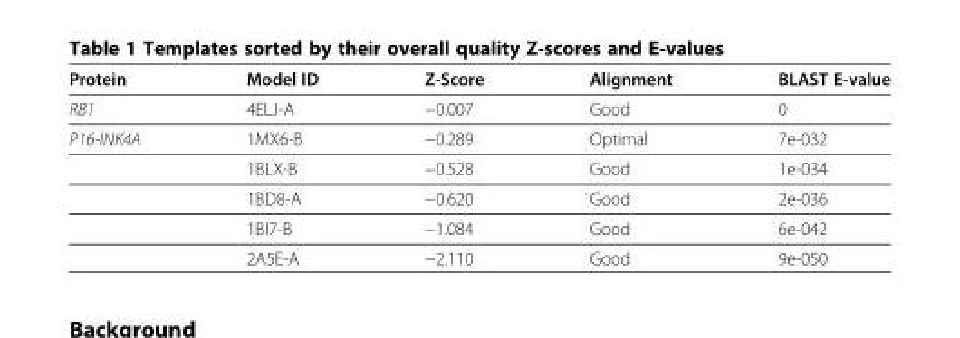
<table><thead><tr><td>Protein</td><td>Model ID</td><td>Z-Score</td><td>Alignment</td><td>BLAST E-value</td></tr></thead><tbody><tr><td>RB1</td><td>4ELJ-A</td><td>−0.007</td><td>Good</td><td>0</td></tr><tr><td rowspan="5">P16-INK4A</td><td>1MX6-B</td><td>−0.289</td><td>Optimal</td><td>7e-032</td></tr><tr><td>1BLX-B</td><td>−0.528</td><td>Good</td><td>1e-034</td></tr><tr><td>1BD8-A</td><td>−0.620</td><td>Good</td><td>2e-036</td></tr><tr><td>1BI7-B</td><td>−1.084</td><td>Good</td><td>6e-042</td></tr><tr><td>2A5E-A</td><td>−2.110</td><td>Good</td><td>9e-050</td></tr></tbody></table>